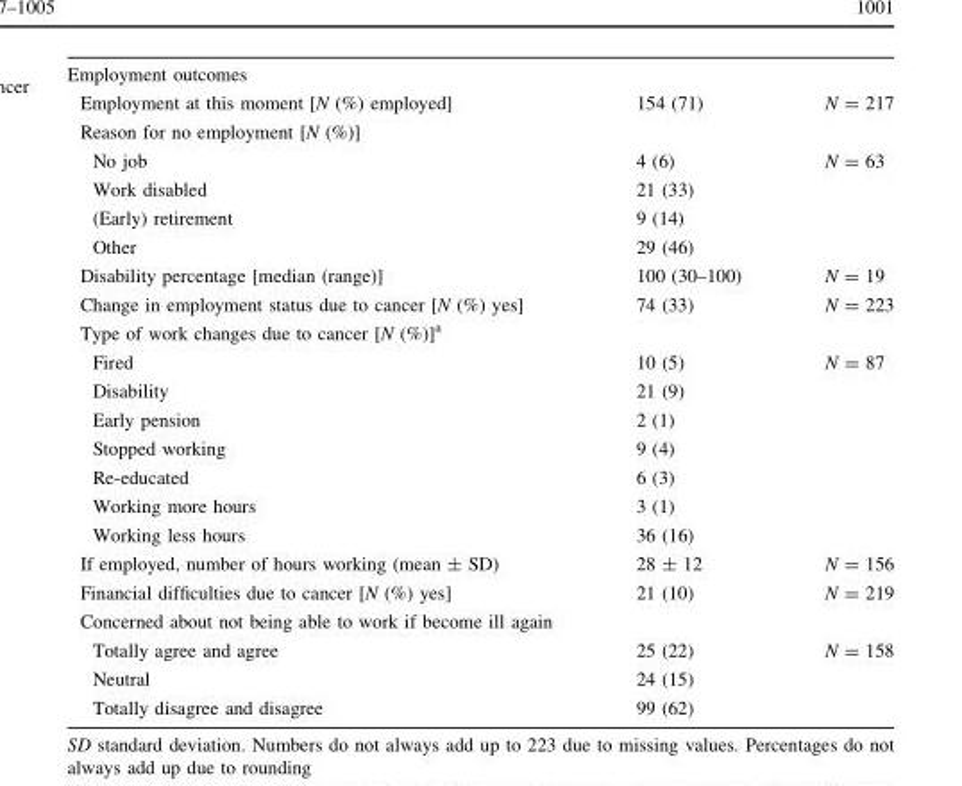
<table><tbody><tr><td colspan="3">Employment outcomes</td></tr><tr><td>Employment at this moment [N (%) employed]</td><td>154 (71)</td><td>N = 217</td></tr><tr><td colspan="3">Reason for no employment [N (%)]</td></tr><tr><td>No job</td><td>4 (6)</td><td>N = 63</td></tr><tr><td>Work disabled</td><td>21 (33)</td><td></td></tr><tr><td>(Early) retirement</td><td>9 (14)</td><td></td></tr><tr><td>Other</td><td>29 (46)</td><td></td></tr><tr><td>Disability percentage [median (range)]</td><td>100 (30–100)</td><td>N = 19</td></tr><tr><td>Change in employment status due to cancer [N (%) yes]</td><td>74 (33)</td><td>N = 223</td></tr><tr><td colspan="3">Type of work changes due to cancer [N (%)]<sup>a</sup></td></tr><tr><td>Fired</td><td>10 (5)</td><td>N = 87</td></tr><tr><td>Disability</td><td>21 (9)</td><td></td></tr><tr><td>Early pension</td><td>2 (1)</td><td></td></tr><tr><td>Stopped working</td><td>9 (4)</td><td></td></tr><tr><td>Re-educated</td><td>6 (3)</td><td></td></tr><tr><td>Working more hours</td><td>3 (1)</td><td></td></tr><tr><td>Working less hours</td><td>36 (16)</td><td></td></tr><tr><td>If employed, number of hours working (mean ± SD)</td><td>28 ± 12</td><td>N = 156</td></tr><tr><td>Financial difficulties due to cancer [N (%) yes]</td><td>21 (10)</td><td>N = 219</td></tr><tr><td colspan="3">Concerned about not being able to work if become ill again</td></tr><tr><td>Totally agree and agree</td><td>25 (22)</td><td>N = 158</td></tr><tr><td>Neutral</td><td>24 (15)</td><td></td></tr><tr><td>Totally disagree and disagree</td><td>99 (62)</td><td></td></tr></tbody></table>